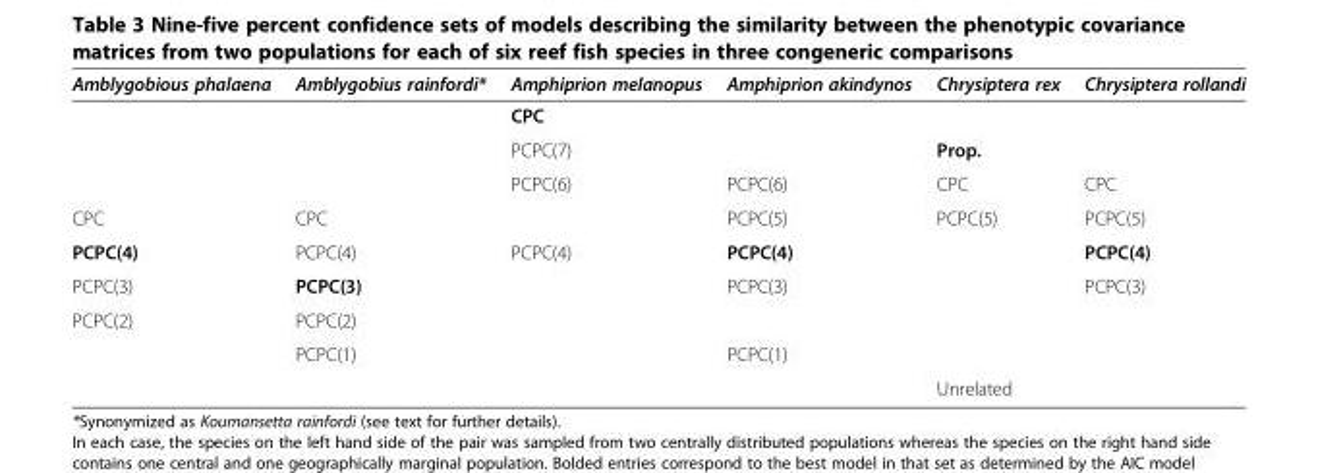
<table><thead><tr><td>Amblygobious phalaena</td><td>Amblygobius rainfordi*</td><td>Amphiprion melanopus</td><td>Amphiprion akindynos</td><td>Chrysiptera rex</td><td>Chrysiptera rollandi</td></tr></thead><tbody><tr><td></td><td></td><td>CPC</td><td></td><td></td><td></td></tr><tr><td></td><td></td><td>PCPC(7)</td><td></td><td>Prop.</td><td></td></tr><tr><td></td><td></td><td>PCPC(6)</td><td>PCPC(6)</td><td>CPC</td><td>CPC</td></tr><tr><td>CPC</td><td>CPC</td><td></td><td>PCPC(5)</td><td>PCPC(5)</td><td>PCPC(5)</td></tr><tr><td>PCPC(4)</td><td>PCPC(4)</td><td>PCPC(4)</td><td>PCPC(4)</td><td></td><td>PCPC(4)</td></tr><tr><td>PCPC(3)</td><td>PCPC(3)</td><td></td><td>PCPC(3)</td><td></td><td>PCPC(3)</td></tr><tr><td rowspan="3">PCPC(2)</td><td>PCPC(2)</td><td></td><td></td><td></td><td></td></tr><tr><td>PCPC(1)</td><td></td><td>PCPC(1)</td><td></td><td></td></tr><tr><td></td><td></td><td></td><td>Unrelated</td><td></td></tr></tbody></table>